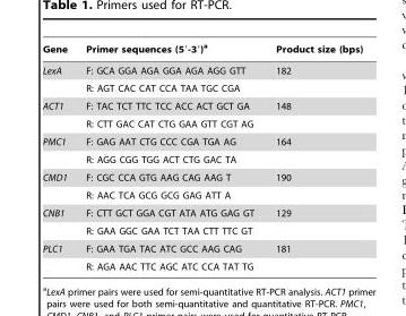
<table><thead><tr><td>Gene</td><td>Primer sequences (5′-3′)<sup>a</sup></td><td>Product size (bps)</td></tr></thead><tbody><tr><td rowspan="2">LexA</td><td>F: GCA GGA AGA GGA AGA AGG GTT</td><td>182</td></tr><tr><td>R: AGT CAC CAT CCA TAA TGC CGA</td><td></td></tr><tr><td rowspan="2">ACT1</td><td>F: TAC TCT TTC TCC ACC ACT GCT GA</td><td>148</td></tr><tr><td>R: CTT GAC CAT CTG GAA GTT CGT AG</td><td></td></tr><tr><td rowspan="2">PMC1</td><td>F: GAG AAT CTG CCC CGA TGA AG</td><td>164</td></tr><tr><td>R: AGG CGG TGG ACT CTG GAC TA</td><td></td></tr><tr><td rowspan="2">CMD1</td><td>F: CGC CCA GTG AAG CAG AAG T</td><td>190</td></tr><tr><td>R: AAC TCA GCG GCG GAG ATT A</td><td></td></tr><tr><td rowspan="2">CNB1</td><td>F: CTT GCT GGA CGT ATA ATG GAG GT</td><td>129</td></tr><tr><td>R: GAA GGC GAA TCT TAA CTT TTC GT</td><td></td></tr><tr><td rowspan="2">PLC1</td><td>F: GAA TGA TAC ATC GCC AAG CAG</td><td>181</td></tr><tr><td>R: AGA AAC TTC AGC ATC CCA TAT TG</td><td></td></tr></tbody></table>